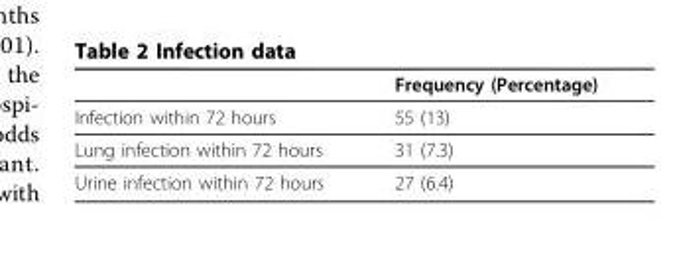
<table><thead><tr><td></td><td>Frequency (Percentage)</td></tr></thead><tbody><tr><td>Infection within 72 hours</td><td>55 (13)</td></tr><tr><td>Lung infection within 72 hours</td><td>31 (7.3)</td></tr><tr><td>Urine infection within 72 hours</td><td>27 (6.4)</td></tr></tbody></table>